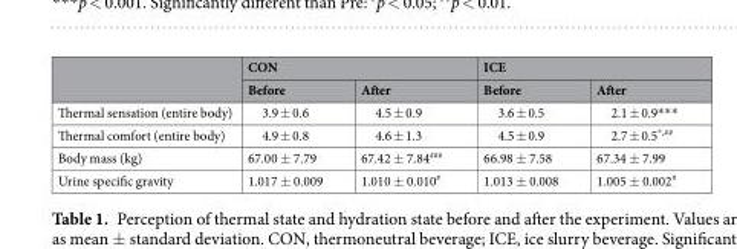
<table><thead><tr><td rowspan="2"></td><td colspan="2">CON</td><td colspan="2">ICE</td></tr><tr><td>Before</td><td>After</td><td>Before</td><td>After</td></tr></thead><tbody><tr><td>Thermal sensation (entire body)</td><td>3.9 ± 0.6</td><td>4.5 ± 0.9</td><td>3.6 ± 0.5</td><td>2.1 ± 0.9***</td></tr><tr><td>Thermal comfort (entire body)</td><td>4.9 ± 0.8</td><td>4.6 ± 1.3</td><td>4.5 ± 0.9</td><td>2.7 ± 0.5<sup>*,##</sup></td></tr><tr><td>Body mass (kg)</td><td>67.00 ± 7.79</td><td>67.42 ± 7.84<sup>###</sup></td><td>66.98 ± 7.58</td><td>67.34 ± 7.99</td></tr><tr><td>Urine specific gravity</td><td>1.017 ± 0.009</td><td>1.010 ± 0.010<sup>#</sup></td><td>1.013 ± 0.008</td><td>1.005 ± 0.002<sup>#</sup></td></tr></tbody></table>